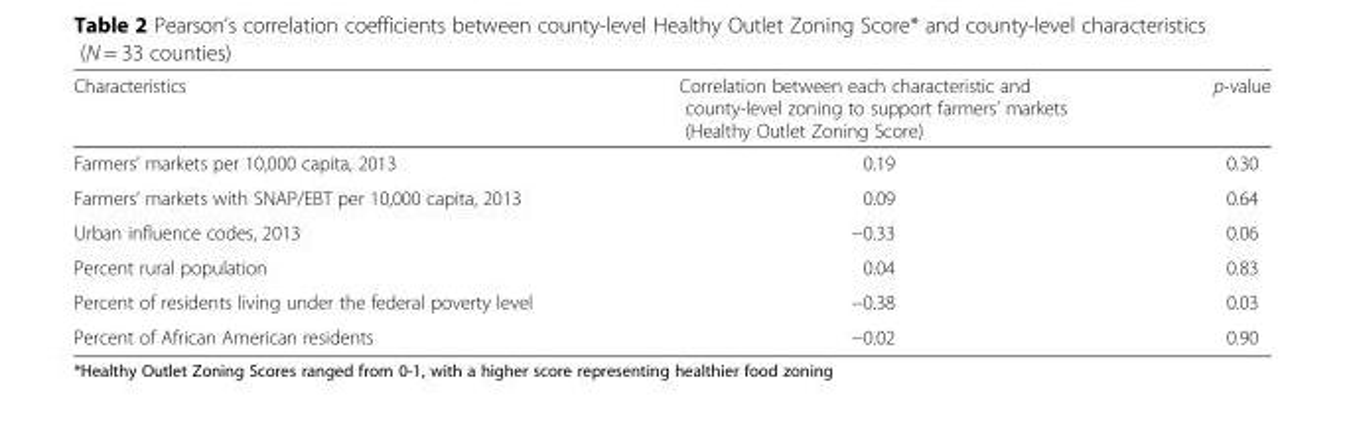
<table><thead><tr><td>Characteristics</td><td>Correlation between each characteristic and county-level zoning to support farmers’ markets (Healthy Outlet Zoning Score)</td><td>p-value</td></tr></thead><tbody><tr><td>Farmers’ markets per 10,000 capita, 2013</td><td>0.19</td><td>0.30</td></tr><tr><td>Farmers’ markets with SNAP/EBT per 10,000 capita, 2013</td><td>0.09</td><td>0.64</td></tr><tr><td>Urban influence codes, 2013</td><td>−0.33</td><td>0.06</td></tr><tr><td>Percent rural population</td><td>0.04</td><td>0.83</td></tr><tr><td>Percent of residents living under the federal poverty level</td><td>−0.38</td><td>0.03</td></tr><tr><td>Percent of African American residents</td><td>−0.02</td><td>0.90</td></tr></tbody></table>